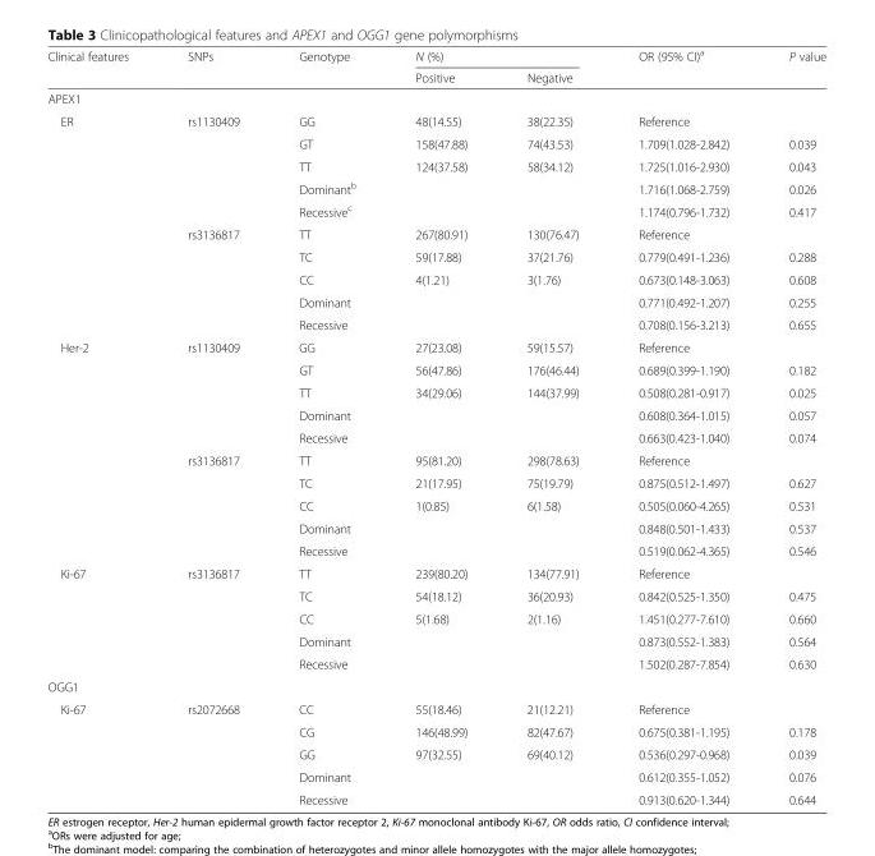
<table><thead><tr><td rowspan="2">Clinical features</td><td rowspan="2">SNPs</td><td rowspan="2">Genotype</td><td colspan="2">N (%)</td><td rowspan="2">OR (95% CI)<sup>a</sup></td><td rowspan="2">P value</td></tr><tr><td>Positive</td><td>Negative</td></tr></thead><tbody><tr><td colspan="7">APEX1</td></tr><tr><td rowspan="10">ER</td><td rowspan="5">rs1130409</td><td>GG</td><td>48(14.55)</td><td>38(22.35)</td><td>Reference</td><td></td></tr><tr><td>GT</td><td>158(47.88)</td><td>74(43.53)</td><td>1.709(1.028-2.842)</td><td>0.039</td></tr><tr><td>TT</td><td>124(37.58)</td><td>58(34.12)</td><td>1.725(1.016-2.930)</td><td>0.043</td></tr><tr><td>Dominant<sup>b</sup></td><td></td><td></td><td>1.716(1.068-2.759)</td><td>0.026</td></tr><tr><td>Recessive<sup>c</sup></td><td></td><td></td><td>1.174(0.796-1.732)</td><td>0.417</td></tr><tr><td rowspan="5">rs3136817</td><td>TT</td><td>267(80.91)</td><td>130(76.47)</td><td>Reference</td><td></td></tr><tr><td>TC</td><td>59(17.88)</td><td>37(21.76)</td><td>0.779(0.491-1.236)</td><td>0.288</td></tr><tr><td>CC</td><td>4(1.21)</td><td>3(1.76)</td><td>0.673(0.148-3.063)</td><td>0.608</td></tr><tr><td>Dominant</td><td></td><td></td><td>0.771(0.492-1.207)</td><td>0.255</td></tr><tr><td>Recessive</td><td></td><td></td><td>0.708(0.156-3.213)</td><td>0.655</td></tr><tr><td rowspan="10">Her-2</td><td rowspan="5">rs1130409</td><td>GG</td><td>27(23.08)</td><td>59(15.57)</td><td>Reference</td><td></td></tr><tr><td>GT</td><td>56(47.86)</td><td>176(46.44)</td><td>0.689(0.399-1.190)</td><td>0.182</td></tr><tr><td>TT</td><td>34(29.06)</td><td>144(37.99)</td><td>0.508(0.281-0.917)</td><td>0.025</td></tr><tr><td>Dominant</td><td></td><td></td><td>0.608(0.364-1.015)</td><td>0.057</td></tr><tr><td>Recessive</td><td></td><td></td><td>0.663(0.423-1.040)</td><td>0.074</td></tr><tr><td rowspan="5">rs3136817</td><td>TT</td><td>95(81.20)</td><td>298(78.63)</td><td>Reference</td><td></td></tr><tr><td>TC</td><td>21(17.95)</td><td>75(19.79)</td><td>0.875(0.512-1.497)</td><td>0.627</td></tr><tr><td>CC</td><td>1(0.85)</td><td>6(1.58)</td><td>0.505(0.060-4.265)</td><td>0.531</td></tr><tr><td>Dominant</td><td></td><td></td><td>0.848(0.501-1.433)</td><td>0.537</td></tr><tr><td>Recessive</td><td></td><td></td><td>0.519(0.062-4.365)</td><td>0.546</td></tr><tr><td rowspan="5">Ki-67</td><td rowspan="5">rs3136817</td><td>TT</td><td>239(80.20)</td><td>134(77.91)</td><td>Reference</td><td></td></tr><tr><td>TC</td><td>54(18.12)</td><td>36(20.93)</td><td>0.842(0.525-1.350)</td><td>0.475</td></tr><tr><td>CC</td><td>5(1.68)</td><td>2(1.16)</td><td>1.451(0.277-7.610)</td><td>0.660</td></tr><tr><td>Dominant</td><td></td><td></td><td>0.873(0.552-1.383)</td><td>0.564</td></tr><tr><td>Recessive</td><td></td><td></td><td>1.502(0.287-7.854)</td><td>0.630</td></tr><tr><td colspan="7">OGG1</td></tr><tr><td rowspan="5">Ki-67</td><td rowspan="5">rs2072668</td><td>CC</td><td>55(18.46)</td><td>21(12.21)</td><td>Reference</td><td></td></tr><tr><td>CG</td><td>146(48.99)</td><td>82(47.67)</td><td>0.675(0.381-1.195)</td><td>0.178</td></tr><tr><td>GG</td><td>97(32.55)</td><td>69(40.12)</td><td>0.536(0.297-0.968)</td><td>0.039</td></tr><tr><td>Dominant</td><td></td><td></td><td>0.612(0.355-1.052)</td><td>0.076</td></tr><tr><td>Recessive</td><td></td><td></td><td>0.913(0.620-1.344)</td><td>0.644</td></tr></tbody></table>